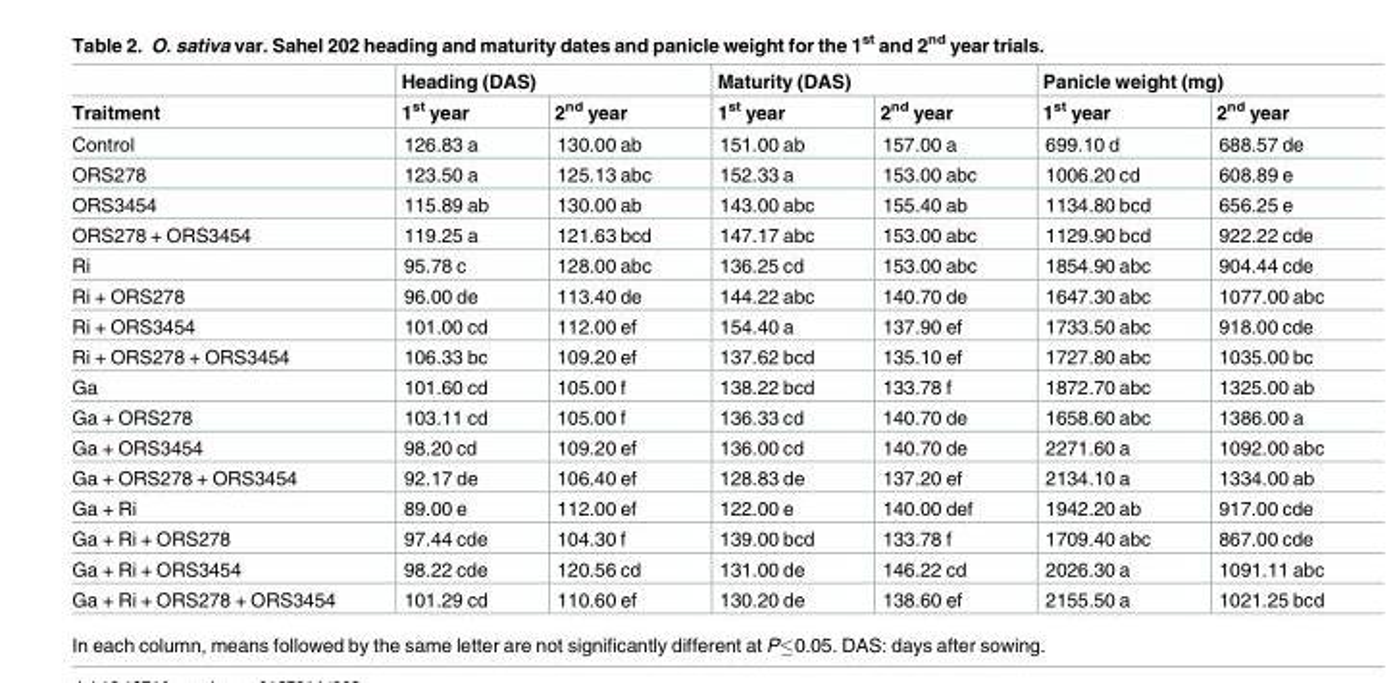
<table><thead><tr><td rowspan="2">Traitment</td><td colspan="2">Heading (DAS)</td><td colspan="2">Maturity (DAS)</td><td colspan="2">Panicle weight (mg)</td></tr><tr><td>1<sup>st</sup> year</td><td>2<sup>nd</sup> year</td><td>1<sup>st</sup> year</td><td>2<sup>nd</sup> year</td><td>1<sup>st</sup> year</td><td>2<sup>nd</sup> year</td></tr></thead><tbody><tr><td>Control</td><td>126.83 a</td><td>130.00 ab</td><td>151.00 ab</td><td>157.00 a</td><td>699.10 d</td><td>688.57 de</td></tr><tr><td>ORS278</td><td>123.50 a</td><td>125.13 abc</td><td>152.33 a</td><td>153.00 abc</td><td>1006.20 cd</td><td>608.89 e</td></tr><tr><td>ORS3454</td><td>115.89 ab</td><td>130.00 ab</td><td>143.00 abc</td><td>155.40 ab</td><td>1134.80 bcd</td><td>656.25 e</td></tr><tr><td>ORS278 + ORS3454</td><td>119.25 a</td><td>121.63 bcd</td><td>147.17 abc</td><td>153.00 abc</td><td>1129.90 bcd</td><td>922.22 cde</td></tr><tr><td>Ri</td><td>95.78 c</td><td>128.00 abc</td><td>136.25 cd</td><td>153.00 abc</td><td>1854.90 abc</td><td>904.44 cde</td></tr><tr><td>Ri + ORS278</td><td>96.00 de</td><td>113.40 de</td><td>144.22 abc</td><td>140.70 de</td><td>1647.30 abc</td><td>1077.00 abc</td></tr><tr><td>Ri + ORS3454</td><td>101.00 cd</td><td>112.00 ef</td><td>154.40 a</td><td>137.90 ef</td><td>1733.50 abc</td><td>918.00 cde</td></tr><tr><td>Ri + ORS278 + ORS3454</td><td>106.33 bc</td><td>109.20 ef</td><td>137.62 bcd</td><td>135.10 ef</td><td>1727.80 abc</td><td>1035.00 bc</td></tr><tr><td>Ga</td><td>101.60 cd</td><td>105.00 f</td><td>138.22 bcd</td><td>133.78 f</td><td>1872.70 abc</td><td>1325.00 ab</td></tr><tr><td>Ga + ORS278</td><td>103.11 cd</td><td>105.00 f</td><td>136.33 cd</td><td>140.70 de</td><td>1658.60 abc</td><td>1386.00 a</td></tr><tr><td>Ga + ORS3454</td><td>98.20 cd</td><td>109.20 ef</td><td>136.00 cd</td><td>140.70 de</td><td>2271.60 a</td><td>1092.00 abc</td></tr><tr><td>Ga + ORS278 + ORS3454</td><td>92.17 de</td><td>106.40 ef</td><td>128.83 de</td><td>137.20 ef</td><td>2134.10 a</td><td>1334.00 ab</td></tr><tr><td>Ga + Ri</td><td>89.00 e</td><td>112.00 ef</td><td>122.00 e</td><td>140.00 def</td><td>1942.20 ab</td><td>917.00 cde</td></tr><tr><td>Ga + Ri + ORS278</td><td>97.44 cde</td><td>104.30 f</td><td>139.00 bcd</td><td>133.78 f</td><td>1709.40 abc</td><td>867.00 cde</td></tr><tr><td>Ga + Ri + ORS3454</td><td>98.22 cde</td><td>120.56 cd</td><td>131.00 de</td><td>146.22 cd</td><td>2026.30 a</td><td>1091.11 abc</td></tr><tr><td>Ga + Ri + ORS278 + ORS3454</td><td>101.29 cd</td><td>110.60 ef</td><td>130.20 de</td><td>138.60 ef</td><td>2155.50 a</td><td>1021.25 bcd</td></tr></tbody></table>